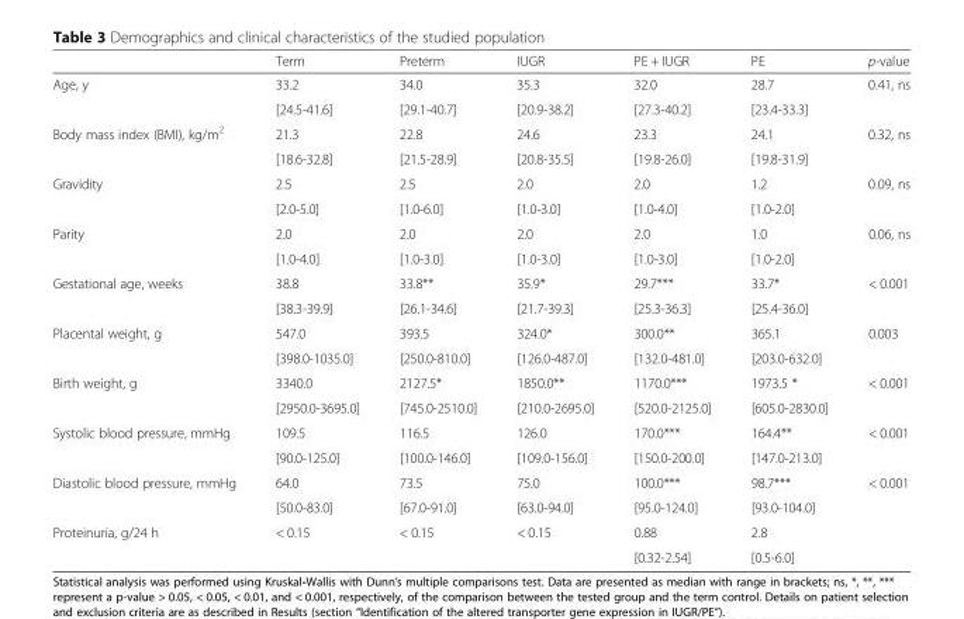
<table><thead><tr><td></td><td>Term</td><td>Preterm</td><td>IUGR</td><td>PE + IUGR</td><td>PE</td><td>p-value</td></tr></thead><tbody><tr><td rowspan="2">Age, y</td><td>33.2</td><td>34.0</td><td>35.3</td><td>32.0</td><td>28.7</td><td rowspan="2">0.41, ns</td></tr><tr><td>[24.5-41.6]</td><td>[29.1-40.7]</td><td>[20.9-38.2]</td><td>[27.3-40.2]</td><td>[23.4-33.3]</td></tr><tr><td rowspan="2">Body mass index (BMI), kg/m<sup>2</sup></td><td>21.3</td><td>22.8</td><td>24.6</td><td>23.3</td><td>24.1</td><td rowspan="2">0.32, ns</td></tr><tr><td>[18.6-32.8]</td><td>[21.5-28.9]</td><td>[20.8-35.5]</td><td>[19.8-26.0]</td><td>[19.8-31.9]</td></tr><tr><td rowspan="2">Gravidity</td><td>2.5</td><td>2.5</td><td>2.0</td><td>2.0</td><td>1.2</td><td rowspan="2">0.09, ns</td></tr><tr><td>[2.0-5.0]</td><td>[1.0-6.0]</td><td>[1.0-3.0]</td><td>[1.0-4.0]</td><td>[1.0-2.0]</td></tr><tr><td rowspan="2">Parity</td><td>2.0</td><td>2.0</td><td>2.0</td><td>2.0</td><td>1.0</td><td rowspan="2">0.06, ns</td></tr><tr><td>[1.0-4.0]</td><td>[1.0-3.0]</td><td>[1.0-3.0]</td><td>[1.0-3.0]</td><td>[1.0-2.0]</td></tr><tr><td rowspan="2">Gestational age, weeks</td><td>38.8</td><td>33.8**</td><td>35.9*</td><td>29.7***</td><td>33.7*</td><td rowspan="2">&lt; 0.001</td></tr><tr><td>[38.3-39.9]</td><td>[26.1-34.6]</td><td>[21.7-39.3]</td><td>[25.3-36.3]</td><td>[25.4-36.0]</td></tr><tr><td rowspan="2">Placental weight, g</td><td>547.0</td><td>393.5</td><td>324.0*</td><td>300.0**</td><td>365.1</td><td rowspan="2">0.003</td></tr><tr><td>[398.0-1035.0]</td><td>[250.0-810.0]</td><td>[126.0-487.0]</td><td>[132.0-481.0]</td><td>[203.0-632.0]</td></tr><tr><td rowspan="2">Birth weight, g</td><td>3340.0</td><td>2127.5*</td><td>1850.0**</td><td>1170.0***</td><td>1973.5 *</td><td rowspan="2">&lt; 0.001</td></tr><tr><td>[2950.0-3695.0]</td><td>[745.0-2510.0]</td><td>[210.0-2695.0]</td><td>[520.0-2125.0]</td><td>[605.0-2830.0]</td></tr><tr><td rowspan="2">Systolic blood pressure, mmHg</td><td>109.5</td><td>116.5</td><td>126.0</td><td>170.0***</td><td>164.4**</td><td rowspan="2">&lt; 0.001</td></tr><tr><td>[90.0-125.0]</td><td>[100.0-146.0]</td><td>[109.0-156.0]</td><td>[150.0-200.0]</td><td>[147.0-213.0]</td></tr><tr><td rowspan="2">Diastolic blood pressure, mmHg</td><td>64.0</td><td>73.5</td><td>75.0</td><td>100.0***</td><td>98.7***</td><td rowspan="2">&lt; 0.001</td></tr><tr><td>[50.0-83.0]</td><td>[67.0-91.0]</td><td>[63.0-94.0]</td><td>[95.0-124.0]</td><td>[93.0-104.0]</td></tr><tr><td rowspan="2">Proteinuria, g/24 h</td><td rowspan="2">&lt; 0.15</td><td rowspan="2">&lt; 0.15</td><td rowspan="2">&lt; 0.15</td><td>0.88</td><td>2.8</td><td rowspan="2"></td></tr><tr><td>[0.32-2.54]</td><td>[0.5-6.0]</td></tr></tbody></table>